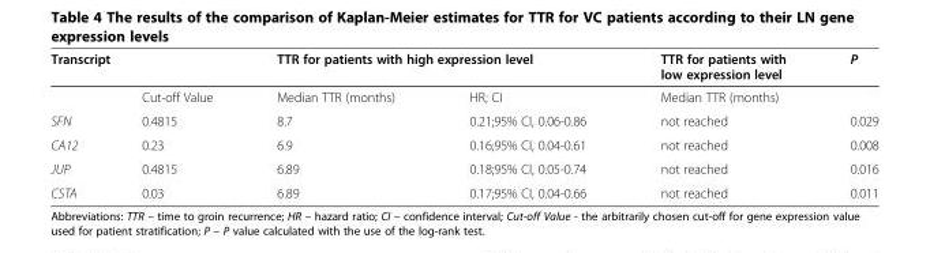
<table><thead><tr><td colspan="2">Transcript</td><td colspan="2">TTR for patients with high expression level</td><td rowspan="2">TTR for patients with low expression level Median TTR (months)</td><td rowspan="2">P</td></tr><tr><td></td><td>Cut-off Value</td><td>Median TTR (months)</td><td>HR; CI</td></tr></thead><tbody><tr><td>SFN</td><td>0.4815</td><td>8.7</td><td>0.21;95% CI, 0.06-0.86</td><td>not reached</td><td>0.029</td></tr><tr><td>CA12</td><td>0.23</td><td>6.9</td><td>0.16;95% CI, 0.04-0.61</td><td>not reached</td><td>0.008</td></tr><tr><td>JUP</td><td>0.4815</td><td>6.89</td><td>0.18;95% CI, 0.05-0.74</td><td>not reached</td><td>0.016</td></tr><tr><td>CSTA</td><td>0.03</td><td>6.89</td><td>0.17;95% CI, 0.04-0.66</td><td>not reached</td><td>0.011</td></tr></tbody></table>